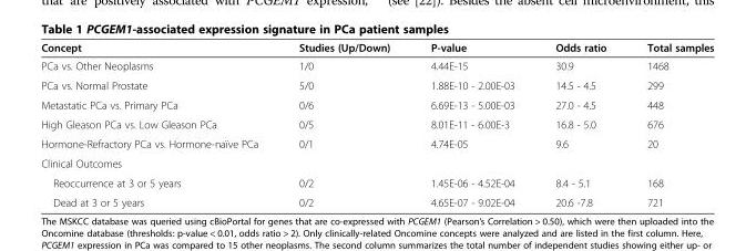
<table><thead><tr><td>Concept</td><td>Studies (Up/Down)</td><td>P-value</td><td>Odds ratio</td><td>Total samples</td></tr></thead><tbody><tr><td>PCa vs. Other Neoplasms</td><td>1/0</td><td>4.44E-15</td><td>30.9</td><td>1468</td></tr><tr><td>PCa vs. Normal Prostate</td><td>5/0</td><td>1.88E-10 - 2.00E-03</td><td>14.5 - 4.5</td><td>299</td></tr><tr><td>Metastatic PCa vs. Primary PCa</td><td>0/6</td><td>6.69E-13 - 5.00E-03</td><td>27.0 - 4.5</td><td>448</td></tr><tr><td>High Gleason PCa vs. Low Gleason PCa</td><td>0/5</td><td>8.01E-11 - 6.00E-3</td><td>16.8 - 5.0</td><td>676</td></tr><tr><td>Hormone-Refractory PCa vs. Hormone-naïve PCa</td><td>0/1</td><td>4.74E-05</td><td>9.6</td><td>20</td></tr><tr><td colspan="5">Clinical Outcomes</td></tr><tr><td>Reoccurrence at 3 or 5 years</td><td>0/2</td><td>1.45E-06 - 4.52E-04</td><td>8.4 - 5.1</td><td>168</td></tr><tr><td>Dead at 3 or 5 years</td><td>0/2</td><td>4.65E-07 - 9.02E-04</td><td>20.6 -7.8</td><td>721</td></tr></tbody></table>